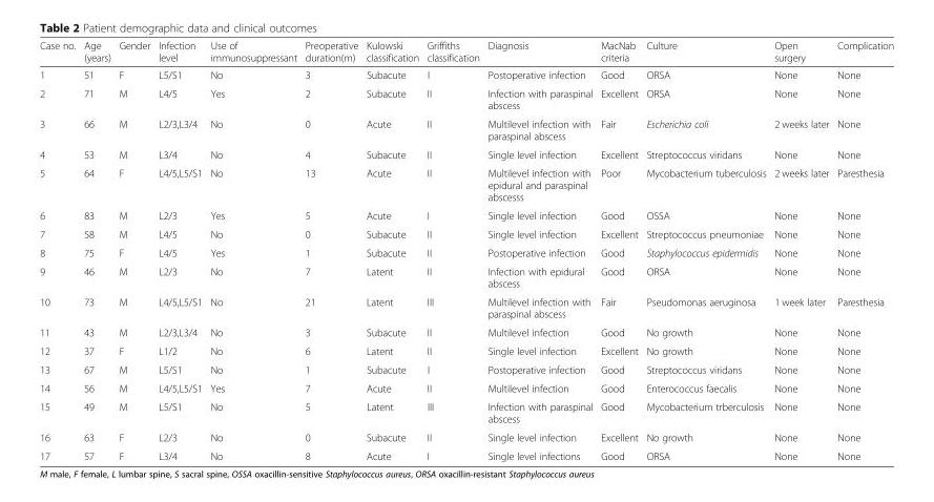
<table><thead><tr><td>Case no.</td><td>Age (years)</td><td>Gender</td><td>Infection level</td><td>Use of immunosuppressant</td><td>Preoperative duration(m)</td><td>Kulowski classification</td><td>Griffiths classification</td><td>Diagnosis</td><td>MacNab criteria</td><td>Culture</td><td>Open surgery</td><td>Complication</td></tr></thead><tbody><tr><td>1</td><td>51</td><td>F</td><td>L5/S1</td><td>No</td><td>3</td><td>Subacute</td><td>I</td><td>Postoperative infection</td><td>Good</td><td>ORSA</td><td>None</td><td>None</td></tr><tr><td>2</td><td>71</td><td>M</td><td>L4/5</td><td>Yes</td><td>2</td><td>Subacute</td><td>II</td><td>Infection with paraspinal abscess</td><td>Excellent</td><td>ORSA</td><td>None</td><td>None</td></tr><tr><td>3</td><td>66</td><td>M</td><td>L2/3,L3/4</td><td>No</td><td>0</td><td>Acute</td><td>II</td><td>Multilevel infection with paraspinal abscess</td><td>Fair</td><td>Escherichia coli</td><td>2 weeks later</td><td>None</td></tr><tr><td>4</td><td>53</td><td>M</td><td>L3/4</td><td>No</td><td>4</td><td>Subacute</td><td>II</td><td>Single level infection</td><td>Excellent</td><td>Streptococcus viridans</td><td>None</td><td>None</td></tr><tr><td>5</td><td>64</td><td>F</td><td>L4/5,L5/S1</td><td>No</td><td>13</td><td>Acute</td><td>II</td><td>Multilevel infection with epidural and paraspinal abscesss</td><td>Poor</td><td>Mycobacterium tuberculosis</td><td>2 weeks later</td><td>Paresthesia</td></tr><tr><td>6</td><td>83</td><td>M</td><td>L2/3</td><td>Yes</td><td>5</td><td>Acute</td><td>I</td><td>Single level infection</td><td>Good</td><td>OSSA</td><td>None</td><td>None</td></tr><tr><td>7</td><td>58</td><td>M</td><td>L4/5</td><td>No</td><td>0</td><td>Subacute</td><td>II</td><td>Single level infection</td><td>Excellent</td><td>Streptococcus pneumoniae</td><td>None</td><td>None</td></tr><tr><td>8</td><td>75</td><td>F</td><td>L4/5</td><td>Yes</td><td>1</td><td>Subacute</td><td>II</td><td>Postoperative infection</td><td>Good</td><td>Staphylococcus epidermidis</td><td>None</td><td>None</td></tr><tr><td>9</td><td>46</td><td>M</td><td>L2/3</td><td>No</td><td>7</td><td>Latent</td><td>II</td><td>Infection with epidural abscess</td><td>Good</td><td>ORSA</td><td>None</td><td>None</td></tr><tr><td>10</td><td>73</td><td>M</td><td>L4/5,L5/S1</td><td>No</td><td>21</td><td>Latent</td><td>III</td><td>Multilevel infection with paraspinal abscess</td><td>Fair</td><td>Pseudomonas aeruginosa</td><td>1 week later</td><td>Paresthesia</td></tr><tr><td>11</td><td>43</td><td>M</td><td>L2/3,L3/4</td><td>No</td><td>3</td><td>Subacute</td><td>II</td><td>Multilevel infection</td><td>Good</td><td>No growth</td><td>None</td><td>None</td></tr><tr><td>12</td><td>37</td><td>F</td><td>L1/2</td><td>No</td><td>6</td><td>Latent</td><td>II</td><td>Single level infection</td><td>Excellent</td><td>No growth</td><td>None</td><td>None</td></tr><tr><td>13</td><td>67</td><td>M</td><td>L5/S1</td><td>No</td><td>1</td><td>Subacute</td><td>I</td><td>Postoperative infection</td><td>Good</td><td>Streptococcus viridans</td><td>None</td><td>None</td></tr><tr><td>14</td><td>56</td><td>M</td><td>L4/5,L5/S1</td><td>Yes</td><td>7</td><td>Acute</td><td>II</td><td>Multilevel infection</td><td>Good</td><td>Enterococcus faecalis</td><td>None</td><td>None</td></tr><tr><td>15</td><td>49</td><td>M</td><td>L5/S1</td><td>No</td><td>5</td><td>Latent</td><td>III</td><td>Infection with paraspinal abscess</td><td>Good</td><td>Mycobacterium trberculosis</td><td>None</td><td>None</td></tr><tr><td>16</td><td>63</td><td>F</td><td>L2/3</td><td>No</td><td>0</td><td>Subacute</td><td>II</td><td>Single level infection</td><td>Excellent</td><td>No growth</td><td>None</td><td>None</td></tr><tr><td>17</td><td>57</td><td>F</td><td>L3/4</td><td>No</td><td>8</td><td>Acute</td><td>I</td><td>Single level infections</td><td>Good</td><td>ORSA</td><td>None</td><td>None</td></tr></tbody></table>